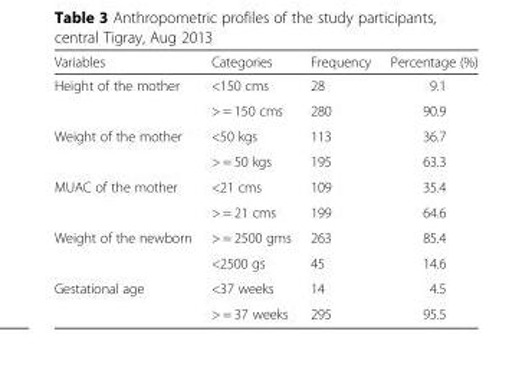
<table><thead><tr><td>Variables</td><td>Categories</td><td>Frequency</td><td>Percentage (%)</td></tr></thead><tbody><tr><td rowspan="2">Height of the mother</td><td>&lt;150 cms</td><td>28</td><td>9.1</td></tr><tr><td>&gt; = 150 cms</td><td>280</td><td>90.9</td></tr><tr><td rowspan="2">Weight of the mother</td><td>&lt;50 kgs</td><td>113</td><td>36.7</td></tr><tr><td>&gt; = 50 kgs</td><td>195</td><td>63.3</td></tr><tr><td rowspan="2">MUAC of the mother</td><td>&lt;21 cms</td><td>109</td><td>35.4</td></tr><tr><td>&gt; = 21 cms</td><td>199</td><td>64.6</td></tr><tr><td rowspan="2">Weight of the newborn</td><td>&gt; = 2500 gms</td><td>263</td><td>85.4</td></tr><tr><td>&lt;2500 gs</td><td>45</td><td>14.6</td></tr><tr><td rowspan="2">Gestational age</td><td>&lt;37 weeks</td><td>14</td><td>4.5</td></tr><tr><td>&gt; = 37 weeks</td><td>295</td><td>95.5</td></tr></tbody></table>